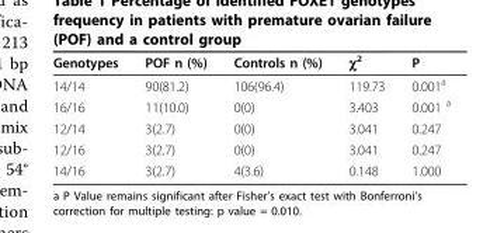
<table><thead><tr><td>Genotypes</td><td>POF n (%)</td><td>Controls n (%)</td><td>χ<sup>2</sup></td><td>P</td></tr></thead><tbody><tr><td>14/14</td><td>90(81.2)</td><td>106(96.4)</td><td>119.73</td><td>0.001<sup>a</sup></td></tr><tr><td>16/16</td><td>11(10.0)</td><td>0(0)</td><td>3.403</td><td>0.001 <sup>a</sup></td></tr><tr><td>12/14</td><td>3(2.7)</td><td>0(0)</td><td>3.041</td><td>0.247</td></tr><tr><td>12/16</td><td>3(2.7)</td><td>0(0)</td><td>3.041</td><td>0.247</td></tr><tr><td>14/16</td><td>3(2.7)</td><td>4(3.6)</td><td>0.148</td><td>1.000</td></tr></tbody></table>